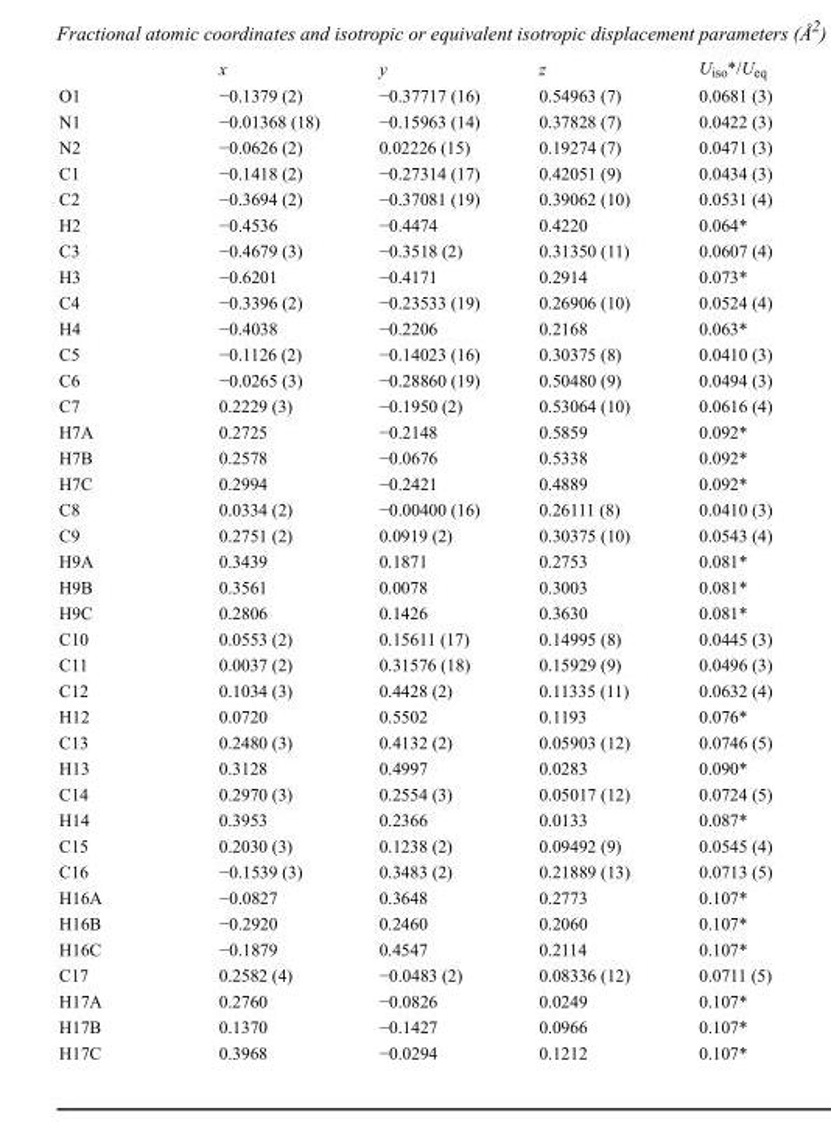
<table><thead><tr><td></td><td>x</td><td>y</td><td>z</td><td>U<sub>iso</sub>*/U<sub>eq</sub></td></tr></thead><tbody><tr><td>O1</td><td>−0.1379 (2)</td><td>−0.37717 (16)</td><td>0.54963 (7)</td><td>0.0681 (3)</td></tr><tr><td>N1</td><td>−0.01368 (18)</td><td>−0.15963 (14)</td><td>0.37828 (7)</td><td>0.0422 (3)</td></tr><tr><td>N2</td><td>−0.0626 (2)</td><td>0.02226 (15)</td><td>0.19274 (7)</td><td>0.0471 (3)</td></tr><tr><td>C1</td><td>−0.1418 (2)</td><td>−0.27314 (17)</td><td>0.42051 (9)</td><td>0.0434 (3)</td></tr><tr><td>C2</td><td>−0.3694 (2)</td><td>−0.37081 (19)</td><td>0.39062 (10)</td><td>0.0531 (4)</td></tr><tr><td>H2</td><td>−0.4536</td><td>−0.4474</td><td>0.4220</td><td>0.064*</td></tr><tr><td>C3</td><td>−0.4679 (3)</td><td>−0.3518 (2)</td><td>0.31350 (11)</td><td>0.0607 (4)</td></tr><tr><td>H3</td><td>−0.6201</td><td>−0.4171</td><td>0.2914</td><td>0.073*</td></tr><tr><td>C4</td><td>−0.3396 (2)</td><td>−0.23533 (19)</td><td>0.26906 (10)</td><td>0.0524 (4)</td></tr><tr><td>H4</td><td>−0.4038</td><td>−0.2206</td><td>0.2168</td><td>0.063*</td></tr><tr><td>C5</td><td>−0.1126 (2)</td><td>−0.14023 (16)</td><td>0.30375 (8)</td><td>0.0410 (3)</td></tr><tr><td>C6</td><td>−0.0265 (3)</td><td>−0.28860 (19)</td><td>0.50480 (9)</td><td>0.0494 (3)</td></tr><tr><td>C7</td><td>0.2229 (3)</td><td>−0.1950 (2)</td><td>0.53064 (10)</td><td>0.0616 (4)</td></tr><tr><td>H7A</td><td>0.2725</td><td>−0.2148</td><td>0.5859</td><td>0.092*</td></tr><tr><td>H7B</td><td>0.2578</td><td>−0.0676</td><td>0.5338</td><td>0.092*</td></tr><tr><td>H7C</td><td>0.2994</td><td>−0.2421</td><td>0.4889</td><td>0.092*</td></tr><tr><td>C8</td><td>0.0334 (2)</td><td>−0.00400 (16)</td><td>0.26111 (8)</td><td>0.0410 (3)</td></tr><tr><td>C9</td><td>0.2751 (2)</td><td>0.0919 (2)</td><td>0.30375 (10)</td><td>0.0543 (4)</td></tr><tr><td>H9A</td><td>0.3439</td><td>0.1871</td><td>0.2753</td><td>0.081*</td></tr><tr><td>H9B</td><td>0.3561</td><td>0.0078</td><td>0.3003</td><td>0.081*</td></tr><tr><td>H9C</td><td>0.2806</td><td>0.1426</td><td>0.3630</td><td>0.081*</td></tr><tr><td>C10</td><td>0.0553 (2)</td><td>0.15611 (17)</td><td>0.14995 (8)</td><td>0.0445 (3)</td></tr><tr><td>C11</td><td>0.0037 (2)</td><td>0.31576 (18)</td><td>0.15929 (9)</td><td>0.0496 (3)</td></tr><tr><td>C12</td><td>0.1034 (3)</td><td>0.4428 (2)</td><td>0.11335 (11)</td><td>0.0632 (4)</td></tr><tr><td>H12</td><td>0.0720</td><td>0.5502</td><td>0.1193</td><td>0.076*</td></tr><tr><td>C13</td><td>0.2480 (3)</td><td>0.4132 (2)</td><td>0.05903 (12)</td><td>0.0746 (5)</td></tr><tr><td>H13</td><td>0.3128</td><td>0.4997</td><td>0.0283</td><td>0.090*</td></tr><tr><td>C14</td><td>0.2970 (3)</td><td>0.2554 (3)</td><td>0.05017 (12)</td><td>0.0724 (5)</td></tr><tr><td>H14</td><td>0.3953</td><td>0.2366</td><td>0.0133</td><td>0.087*</td></tr><tr><td>C15</td><td>0.2030 (3)</td><td>0.1238 (2)</td><td>0.09492 (9)</td><td>0.0545 (4)</td></tr><tr><td>C16</td><td>−0.1539 (3)</td><td>0.3483 (2)</td><td>0.21889 (13)</td><td>0.0713 (5)</td></tr><tr><td>H16A</td><td>−0.0827</td><td>0.3648</td><td>0.2773</td><td>0.107*</td></tr><tr><td>H16B</td><td>−0.2920</td><td>0.2460</td><td>0.2060</td><td>0.107*</td></tr><tr><td>H16C</td><td>−0.1879</td><td>0.4547</td><td>0.2114</td><td>0.107*</td></tr><tr><td>C17</td><td>0.2582 (4)</td><td>−0.0483 (2)</td><td>0.08336 (12)</td><td>0.0711 (5)</td></tr><tr><td>H17A</td><td>0.2760</td><td>−0.0826</td><td>0.0249</td><td>0.107*</td></tr><tr><td>H17B</td><td>0.1370</td><td>−0.1427</td><td>0.0966</td><td>0.107*</td></tr><tr><td>H17C</td><td>0.3968</td><td>−0.0294</td><td>0.1212</td><td>0.107*</td></tr></tbody></table>